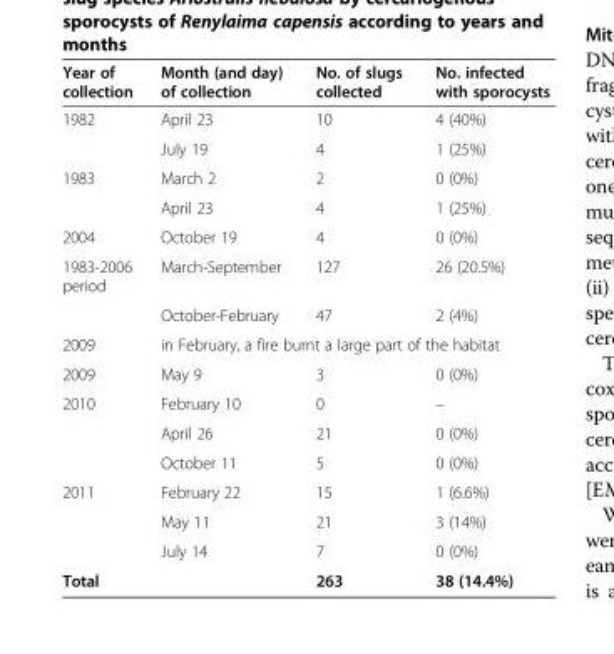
<table><thead><tr><td>Year of collection</td><td>Month (and day) of collection</td><td>No. of slugs collected</td><td>No. infected with sporocysts</td></tr></thead><tbody><tr><td rowspan="2">1982</td><td>April 23</td><td>10</td><td>4 (40%)</td></tr><tr><td>July 19</td><td>4</td><td>1 (25%)</td></tr><tr><td rowspan="2">1983</td><td>March 2</td><td>2</td><td>0 (0%)</td></tr><tr><td>April 23</td><td>4</td><td>1 (25%)</td></tr><tr><td>2004</td><td>October 19</td><td>4</td><td>0 (0%)</td></tr><tr><td rowspan="2">1983-2006 period</td><td>March-September</td><td>127</td><td>26 (20.5%)</td></tr><tr><td>October-February</td><td>47</td><td>2 (4%)</td></tr><tr><td>2009</td><td colspan="3">in February, a fire burnt a large part of the habitat</td></tr><tr><td>2009</td><td>May 9</td><td>3</td><td>0 (0%)</td></tr><tr><td rowspan="3">2010</td><td>February 10</td><td>0</td><td>–</td></tr><tr><td>April 26</td><td>21</td><td>0 (0%)</td></tr><tr><td>October 11</td><td>5</td><td>0 (0%)</td></tr><tr><td rowspan="3">2011</td><td>February 22</td><td>15</td><td>1 (6.6%)</td></tr><tr><td>May 11</td><td>21</td><td>3 (14%)</td></tr><tr><td>July 14</td><td>7</td><td>0 (0%)</td></tr><tr><td>Total</td><td></td><td>263</td><td>38 (14.4%)</td></tr></tbody></table>